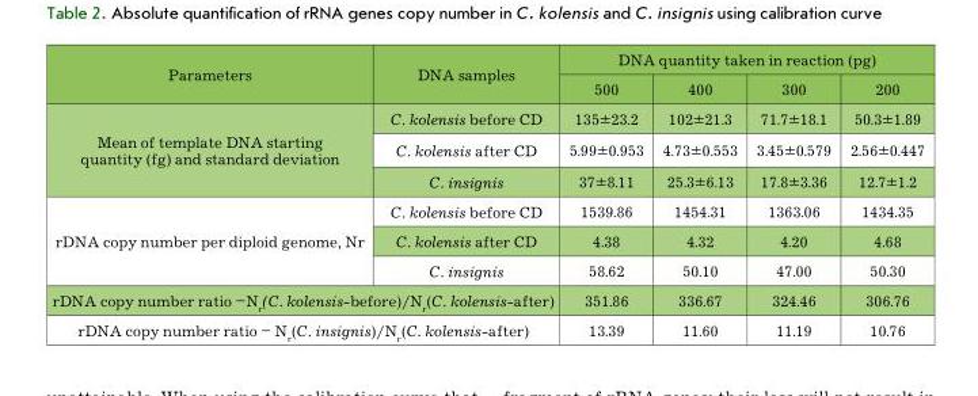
<table><thead><tr><td rowspan="2">Parameters</td><td rowspan="2">DNA samples</td><td colspan="4">DNA quantity taken in reaction (pg)</td></tr><tr><td>500</td><td>400</td><td>300</td><td>200</td></tr></thead><tbody><tr><td rowspan="3">Mean of template DNA starting quantity (fg) and standard deviation</td><td>C. kolensis before CD</td><td>135±23.2</td><td>102±21.3</td><td>71.7±18.1</td><td>50.3±1.89</td></tr><tr><td>C. kolensis after CD</td><td>5.99±0.953</td><td>4.73±0.553</td><td>3.45±0.579</td><td>2.56±0.447</td></tr><tr><td>C. insignis</td><td>37±8.11</td><td>25.3±6.13</td><td>17.8±3.36</td><td>12.7±1.2</td></tr><tr><td rowspan="3">rDNA copy number per diploid genome, Nr</td><td>C. kolensis before CD</td><td>1539.86</td><td>1454.31</td><td>1363.06</td><td>1434.35</td></tr><tr><td>C. kolensis after CD</td><td>4.38</td><td>4.32</td><td>4.20</td><td>4.68</td></tr><tr><td>C. insignis</td><td>58.62</td><td>50.10</td><td>47.00</td><td>50.30</td></tr><tr><td colspan="2">rDNA copy number ratio –N<sub>r</sub>(C. kolensis-before)/N<sub>r</sub>(C. kolensis-after)</td><td>351.86</td><td>336.67</td><td>324.46</td><td>306.76</td></tr><tr><td colspan="2">rDNA copy number ratio – N<sub>r</sub>(C. insignis)/N<sub>r</sub>(C. kolensis-after)</td><td>13.39</td><td>11.60</td><td>11.19</td><td>10.76</td></tr></tbody></table>